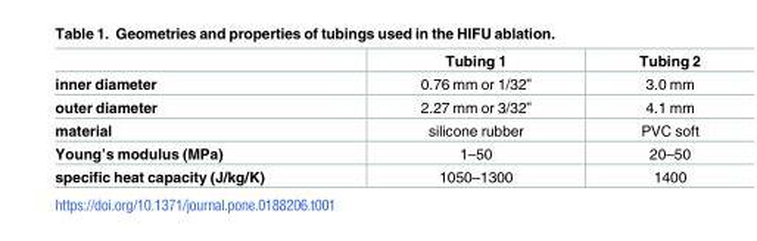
<table><thead><tr><td></td><td>Tubing 1</td><td>Tubing 2</td></tr></thead><tbody><tr><td>inner diameter</td><td>0.76 mm or 1/32”</td><td>3.0 mm</td></tr><tr><td>outer diameter</td><td>2.27 mm or 3/32”</td><td>4.1 mm</td></tr><tr><td>material</td><td>silicone rubber</td><td>PVC soft</td></tr><tr><td>Young’s modulus (MPa)</td><td>1–50</td><td>20–50</td></tr><tr><td>specific heat capacity (J/kg/K)</td><td>1050–1300</td><td>1400</td></tr></tbody></table>